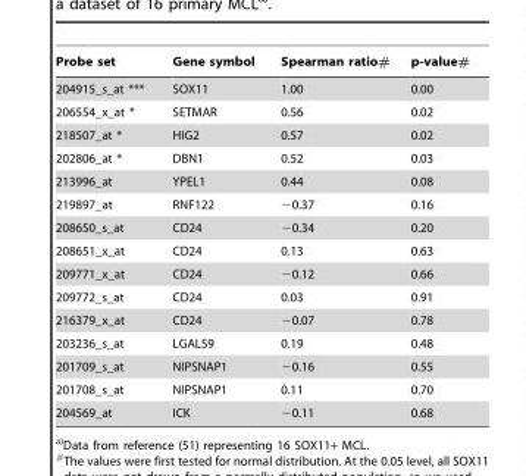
<table><thead><tr><td>Probe set</td><td>Gene symbol</td><td>Spearman ratio#</td><td>p-value#</td></tr></thead><tbody><tr><td>204915_s_at ***</td><td>SOX11</td><td>1.00</td><td>0.00</td></tr><tr><td>206554_x_at *</td><td>SETMAR</td><td>0.56</td><td>0.02</td></tr><tr><td>218507_at *</td><td>HIG2</td><td>0.57</td><td>0.02</td></tr><tr><td>202806_at *</td><td>DBN1</td><td>0.52</td><td>0.03</td></tr><tr><td>213996_at</td><td>YPEL1</td><td>0.44</td><td>0.08</td></tr><tr><td>219897_at</td><td>RNF122</td><td>−0.37</td><td>0.16</td></tr><tr><td>208650_s_at</td><td>CD24</td><td>−0.34</td><td>0.20</td></tr><tr><td>208651_x_at</td><td>CD24</td><td>0.13</td><td>0.63</td></tr><tr><td>209771_x_at</td><td>CD24</td><td>−0.12</td><td>0.66</td></tr><tr><td>209772_s_at</td><td>CD24</td><td>0.03</td><td>0.91</td></tr><tr><td>216379_x_at</td><td>CD24</td><td>−0.07</td><td>0.78</td></tr><tr><td>203236_s_at</td><td>LGALS9</td><td>0.19</td><td>0.48</td></tr><tr><td>201709_s_at</td><td>NIPSNAP1</td><td>−0.16</td><td>0.55</td></tr><tr><td>201708_s_at</td><td>NIPSNAP1</td><td>0.11</td><td>0.70</td></tr><tr><td>204569_at</td><td>ICK</td><td>−0.11</td><td>0.68</td></tr></tbody></table>